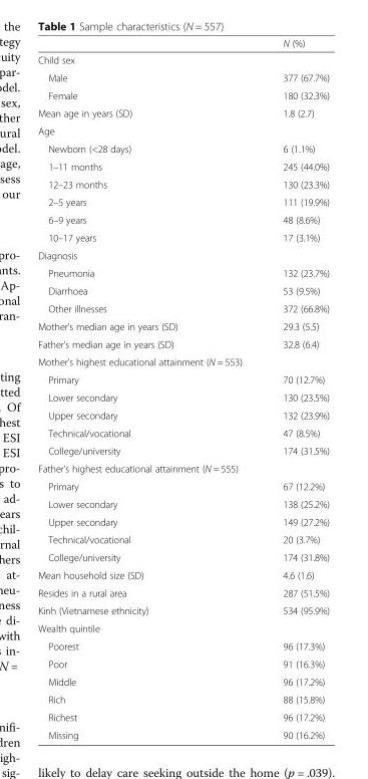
<table><thead><tr><td></td><td>N (%)</td></tr></thead><tbody><tr><td colspan="2">Child sex</td></tr><tr><td>Male</td><td>377 (67.7%)</td></tr><tr><td>Female</td><td>180 (32.3%)</td></tr><tr><td>Mean age in years (SD)</td><td>1.8 (2.7)</td></tr><tr><td colspan="2">Age</td></tr><tr><td>Newborn (&lt;28 days)</td><td>6 (1.1%)</td></tr><tr><td>1–11 months</td><td>245 (44.0%)</td></tr><tr><td>12–23 months</td><td>130 (23.3%)</td></tr><tr><td>2–5 years</td><td>111 (19.9%)</td></tr><tr><td>6–9 years</td><td>48 (8.6%)</td></tr><tr><td>10–17 years</td><td>17 (3.1%)</td></tr><tr><td colspan="2">Diagnosis</td></tr><tr><td>Pneumonia</td><td>132 (23.7%)</td></tr><tr><td>Diarrhoea</td><td>53 (9.5%)</td></tr><tr><td>Other illnesses</td><td>372 (66.8%)</td></tr><tr><td>Mother’s median age in years (SD)</td><td>29.3 (5.5)</td></tr><tr><td>Father’s median age in years (SD)</td><td>32.8 (6.4)</td></tr><tr><td colspan="2">Mother’s highest educational attainment (N = 553)</td></tr><tr><td>Primary</td><td>70 (12.7%)</td></tr><tr><td>Lower secondary</td><td>130 (23.5%)</td></tr><tr><td>Upper secondary</td><td>132 (23.9%)</td></tr><tr><td>Technical/vocational</td><td>47 (8.5%)</td></tr><tr><td>College/university</td><td>174 (31.5%)</td></tr><tr><td colspan="2">Father’s highest educational attainment (N = 555)</td></tr><tr><td>Primary</td><td>67 (12.2%)</td></tr><tr><td>Lower secondary</td><td>138 (25.2%)</td></tr><tr><td>Upper secondary</td><td>149 (27.2%)</td></tr><tr><td>Technical/vocational</td><td>20 (3.7%)</td></tr><tr><td>College/university</td><td>174 (31.8%)</td></tr><tr><td>Mean household size (SD)</td><td>4.6 (1.6)</td></tr><tr><td>Resides in a rural area</td><td>287 (51.5%)</td></tr><tr><td>Kinh (Vietnamese ethnicity)</td><td>534 (95.9%)</td></tr><tr><td colspan="2">Wealth quintile</td></tr><tr><td>Poorest</td><td>96 (17.3%)</td></tr><tr><td>Poor</td><td>91 (16.3%)</td></tr><tr><td>Middle</td><td>96 (17.2%)</td></tr><tr><td>Rich</td><td>88 (15.8%)</td></tr><tr><td>Richest</td><td>96 (17.2%)</td></tr><tr><td>Missing</td><td>90 (16.2%)</td></tr></tbody></table>